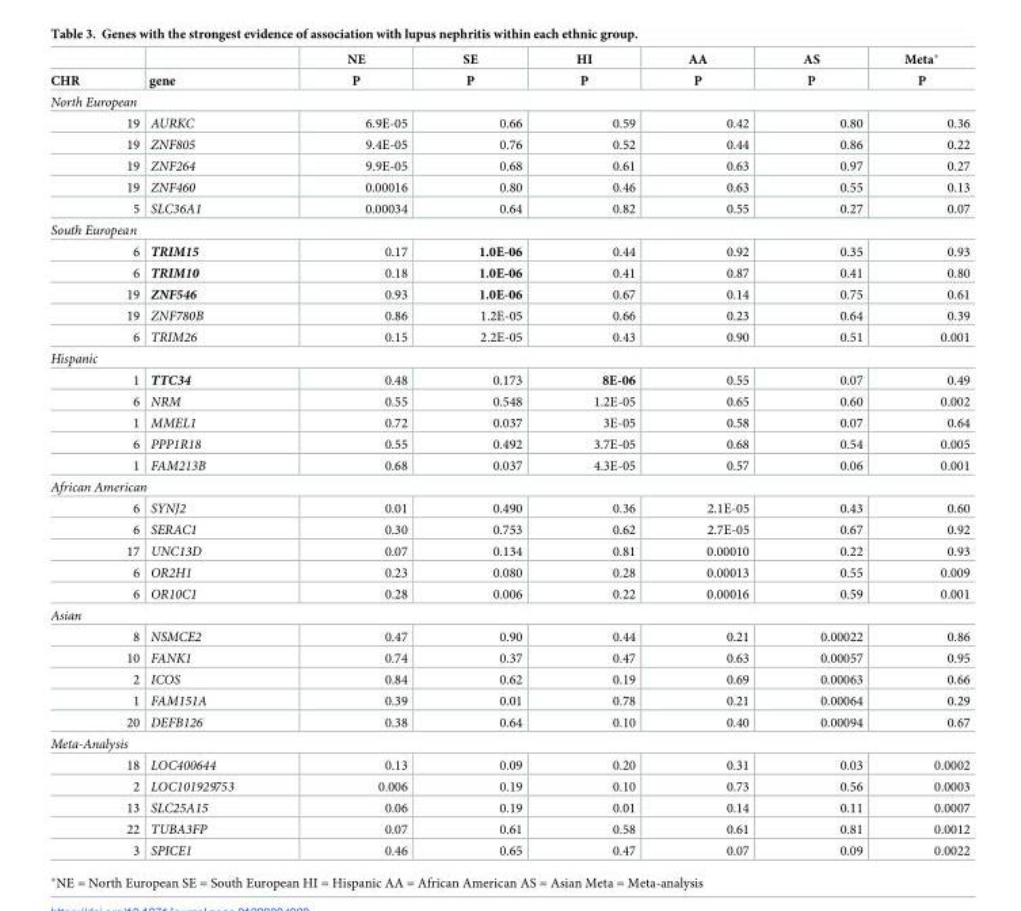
<table><thead><tr><td rowspan="2">CHR</td><td rowspan="2">gene</td><td rowspan="2">NE P</td><td rowspan="2">SE P</td><td rowspan="2">HI P</td><td rowspan="2">AA P</td><td rowspan="2">AS P</td><td rowspan="2">Meta* P</td></tr><tr></tr></thead><tbody><tr><td colspan="8">North European</td></tr><tr><td>19</td><td>AURKC</td><td>6.9E-05</td><td>0.66</td><td>0.59</td><td>0.42</td><td>0.80</td><td>0.36</td></tr><tr><td>19</td><td>ZNF805</td><td>9.4E-05</td><td>0.76</td><td>0.52</td><td>0.44</td><td>0.86</td><td>0.22</td></tr><tr><td>19</td><td>ZNF264</td><td>9.9E-05</td><td>0.68</td><td>0.61</td><td>0.63</td><td>0.97</td><td>0.27</td></tr><tr><td>19</td><td>ZNF460</td><td>0.00016</td><td>0.80</td><td>0.46</td><td>0.63</td><td>0.55</td><td>0.13</td></tr><tr><td>5</td><td>SLC36A1</td><td>0.00034</td><td>0.64</td><td>0.82</td><td>0.55</td><td>0.27</td><td>0.07</td></tr><tr><td colspan="8">South European</td></tr><tr><td>6</td><td>TRIM15</td><td>0.17</td><td>1.0E-06</td><td>0.44</td><td>0.92</td><td>0.35</td><td>0.93</td></tr><tr><td>6</td><td>TRIM10</td><td>0.18</td><td>1.0E-06</td><td>0.41</td><td>0.87</td><td>0.41</td><td>0.80</td></tr><tr><td>19</td><td>ZNF546</td><td>0.93</td><td>1.0E-06</td><td>0.67</td><td>0.14</td><td>0.75</td><td>0.61</td></tr><tr><td>19</td><td>ZNF780B</td><td>0.86</td><td>1.2E-05</td><td>0.66</td><td>0.23</td><td>0.64</td><td>0.39</td></tr><tr><td>6</td><td>TRIM26</td><td>0.15</td><td>2.2E-05</td><td>0.43</td><td>0.90</td><td>0.51</td><td>0.001</td></tr><tr><td colspan="8">Hispanic</td></tr><tr><td>1</td><td>TTC34</td><td>0.48</td><td>0.173</td><td>8E-06</td><td>0.55</td><td>0.07</td><td>0.49</td></tr><tr><td>6</td><td>NRM</td><td>0.55</td><td>0.548</td><td>1.2E-05</td><td>0.65</td><td>0.60</td><td>0.002</td></tr><tr><td>1</td><td>MMEL1</td><td>0.72</td><td>0.037</td><td>3E-05</td><td>0.58</td><td>0.07</td><td>0.64</td></tr><tr><td>6</td><td>PPP1R18</td><td>0.55</td><td>0.492</td><td>3.7E-05</td><td>0.68</td><td>0.54</td><td>0.005</td></tr><tr><td>1</td><td>FAM213B</td><td>0.68</td><td>0.037</td><td>4.3E-05</td><td>0.57</td><td>0.06</td><td>0.001</td></tr><tr><td colspan="8">African American</td></tr><tr><td>6</td><td>SYNJ2</td><td>0.01</td><td>0.490</td><td>0.36</td><td>2.1E-05</td><td>0.43</td><td>0.60</td></tr><tr><td>6</td><td>SERAC1</td><td>0.30</td><td>0.753</td><td>0.62</td><td>2.7E-05</td><td>0.67</td><td>0.92</td></tr><tr><td>17</td><td>UNC13D</td><td>0.07</td><td>0.134</td><td>0.81</td><td>0.00010</td><td>0.22</td><td>0.93</td></tr><tr><td>6</td><td>OR2H1</td><td>0.23</td><td>0.080</td><td>0.28</td><td>0.00013</td><td>0.55</td><td>0.009</td></tr><tr><td>6</td><td>OR10C1</td><td>0.28</td><td>0.006</td><td>0.22</td><td>0.00016</td><td>0.59</td><td>0.001</td></tr><tr><td colspan="8">Asian</td></tr><tr><td>8</td><td>NSMCE2</td><td>0.47</td><td>0.90</td><td>0.44</td><td>0.21</td><td>0.00022</td><td>0.86</td></tr><tr><td>10</td><td>FANK1</td><td>0.74</td><td>0.37</td><td>0.47</td><td>0.63</td><td>0.00057</td><td>0.95</td></tr><tr><td>2</td><td>ICOS</td><td>0.84</td><td>0.62</td><td>0.19</td><td>0.69</td><td>0.00063</td><td>0.66</td></tr><tr><td>1</td><td>FAM151A</td><td>0.39</td><td>0.01</td><td>0.78</td><td>0.21</td><td>0.00064</td><td>0.29</td></tr><tr><td>20</td><td>DEFB126</td><td>0.38</td><td>0.64</td><td>0.10</td><td>0.40</td><td>0.00094</td><td>0.67</td></tr><tr><td colspan="8">Meta-Analysis</td></tr><tr><td>18</td><td>LOC400644</td><td>0.13</td><td>0.09</td><td>0.20</td><td>0.31</td><td>0.03</td><td>0.0002</td></tr><tr><td>2</td><td>LOC101929753</td><td>0.006</td><td>0.19</td><td>0.10</td><td>0.73</td><td>0.56</td><td>0.0003</td></tr><tr><td>13</td><td>SLC25A15</td><td>0.06</td><td>0.19</td><td>0.01</td><td>0.14</td><td>0.11</td><td>0.0007</td></tr><tr><td>22</td><td>TUBA3FP</td><td>0.07</td><td>0.61</td><td>0.58</td><td>0.61</td><td>0.81</td><td>0.0012</td></tr><tr><td>3</td><td>SPICE1</td><td>0.46</td><td>0.65</td><td>0.47</td><td>0.07</td><td>0.09</td><td>0.0022</td></tr></tbody></table>